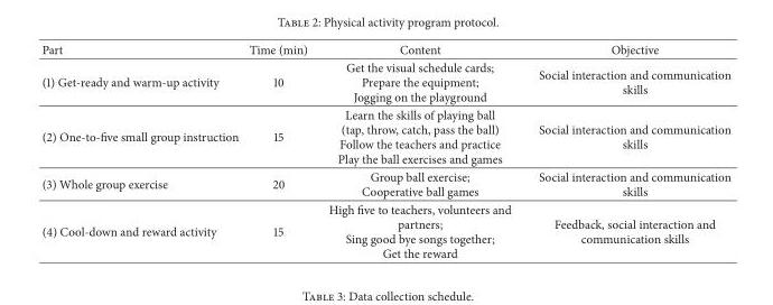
<table><thead><tr><td>Part</td><td>Time (min)</td><td>Content</td><td>Objective</td></tr></thead><tbody><tr><td>(1) Get-ready and warm-up activity</td><td>10</td><td>Get the visual schedule cards; Prepare the equipment; Jogging on the playground</td><td>Social interaction and communication skills</td></tr><tr><td>(2) One-to-five small group instruction</td><td>15</td><td>Learn the skills of playing ball (tap, throw, catch, pass the ball) Follow the teachers and practice Play the ball exercises and games</td><td>Social interaction and communication skills</td></tr><tr><td>(3) Whole group exercise</td><td>20</td><td>Group ball exercise; Cooperative ball games</td><td>Social interaction and communication skills</td></tr><tr><td>(4) Cool-down and reward activity</td><td>15</td><td>High five to teachers, volunteers and partners; Sing good bye songs together; Get the reward</td><td>Feedback, social interaction and communication skills</td></tr></tbody></table>